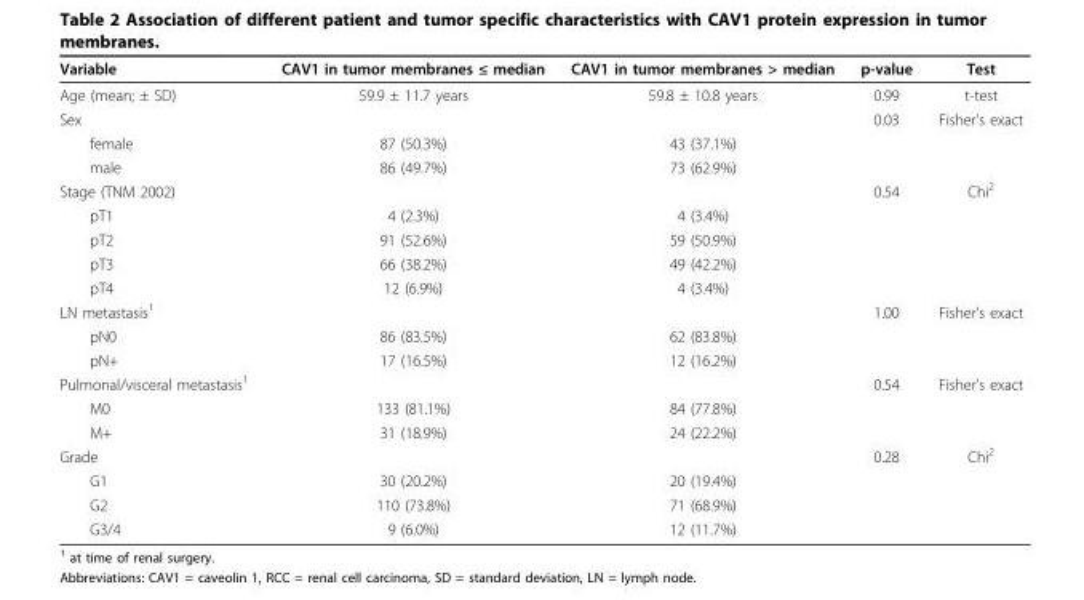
<table><thead><tr><td>Variable</td><td>CAV1 in tumor membranes ≤ median</td><td>CAV1 in tumor membranes &gt; median</td><td>p-value</td><td>Test</td></tr></thead><tbody><tr><td>Age (mean; ± SD)</td><td>59.9 ± 11.7 years</td><td>59.8 ± 10.8 years</td><td>0.99</td><td>t-test</td></tr><tr><td>Sex</td><td></td><td></td><td>0.03</td><td>Fisher’s exact</td></tr><tr><td>female</td><td>87 (50.3%)</td><td>43 (37.1%)</td><td></td><td></td></tr><tr><td>male</td><td>86 (49.7%)</td><td>73 (62.9%)</td><td></td><td></td></tr><tr><td>Stage (TNM 2002)</td><td></td><td></td><td>0.54</td><td>Chi<sup>2</sup></td></tr><tr><td>pT1</td><td>4 (2.3%)</td><td>4 (3.4%)</td><td></td><td></td></tr><tr><td>pT2</td><td>91 (52.6%)</td><td>59 (50.9%)</td><td></td><td></td></tr><tr><td>pT3</td><td>66 (38.2%)</td><td>49 (42.2%)</td><td></td><td></td></tr><tr><td>pT4</td><td>12 (6.9%)</td><td>4 (3.4%)</td><td></td><td></td></tr><tr><td>LN metastasis<sup>1</sup></td><td></td><td></td><td>1.00</td><td>Fisher’s exact</td></tr><tr><td>pN0</td><td>86 (83.5%)</td><td>62 (83.8%)</td><td></td><td></td></tr><tr><td>pN+</td><td>17 (16.5%)</td><td>12 (16.2%)</td><td></td><td></td></tr><tr><td>Pulmonal/visceral metastasis<sup>1</sup></td><td></td><td></td><td>0.54</td><td>Fisher’s exact</td></tr><tr><td>M0</td><td>133 (81.1%)</td><td>84 (77.8%)</td><td></td><td></td></tr><tr><td>M+</td><td>31 (18.9%)</td><td>24 (22.2%)</td><td></td><td></td></tr><tr><td>Grade</td><td></td><td></td><td>0.28</td><td>Chi<sup>2</sup></td></tr><tr><td>G1</td><td>30 (20.2%)</td><td>20 (19.4%)</td><td></td><td></td></tr><tr><td>G2</td><td>110 (73.8%)</td><td>71 (68.9%)</td><td></td><td></td></tr><tr><td>G3/4</td><td>9 (6.0%)</td><td>12 (11.7%)</td><td></td><td></td></tr></tbody></table>